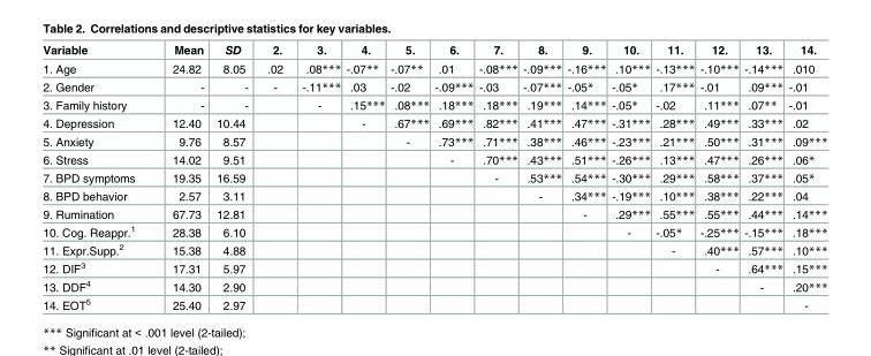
<table><thead><tr><td>Variable</td><td>Mean</td><td>SD</td><td>2.</td><td>3.</td><td>4.</td><td>5.</td><td>6.</td><td>7.</td><td>8.</td><td>9.</td><td>10.</td><td>11.</td><td>12.</td><td>13.</td><td>14.</td></tr></thead><tbody><tr><td>1. Age</td><td>24.82</td><td>8.05</td><td>.02</td><td>.08***</td><td>-.07**</td><td>-.07**</td><td>.01</td><td>-.08***</td><td>-.09***</td><td>-.16***</td><td>.10***</td><td>-.13***</td><td>-.10***</td><td>-.14***</td><td>.010</td></tr><tr><td>2. Gender</td><td>-</td><td>-</td><td>-</td><td>-.11***</td><td>.03</td><td>-.02</td><td>-.09***</td><td>-.03</td><td>-.07***</td><td>-.05*</td><td>-.05*</td><td>.17***</td><td>-.01</td><td>.09***</td><td>-.01</td></tr><tr><td>3. Family history</td><td>-</td><td>-</td><td></td><td>-</td><td>.15***</td><td>.08***</td><td>.18***</td><td>.18***</td><td>.19***</td><td>.14***</td><td>-.05*</td><td>-.02</td><td>.11***</td><td>.07**</td><td>-.01</td></tr><tr><td>4. Depression</td><td>12.40</td><td>10.44</td><td></td><td></td><td>-</td><td>.67***</td><td>.69***</td><td>.82***</td><td>.41***</td><td>.47***</td><td>-.31***</td><td>.28***</td><td>.49***</td><td>.33***</td><td>.02</td></tr><tr><td>5. Anxiety</td><td>9.76</td><td>8.57</td><td></td><td></td><td></td><td>-</td><td>.73***</td><td>.71***</td><td>.38***</td><td>.46***</td><td>-.23***</td><td>.21***</td><td>.50***</td><td>.31***</td><td>.09***</td></tr><tr><td>6. Stress</td><td>14.02</td><td>9.51</td><td></td><td></td><td></td><td></td><td>-</td><td>.70***</td><td>.43***</td><td>.51***</td><td>-.26***</td><td>.13***</td><td>.47***</td><td>.26***</td><td>.06*</td></tr><tr><td>7. BPD symptoms</td><td>19.35</td><td>16.59</td><td></td><td></td><td></td><td></td><td></td><td>-</td><td>.53***</td><td>.54***</td><td>-.30***</td><td>.29***</td><td>.58***</td><td>.37***</td><td>.05*</td></tr><tr><td>8. BPD behavior</td><td>2.57</td><td>3.11</td><td></td><td></td><td></td><td></td><td></td><td></td><td>-</td><td>.34***</td><td>-.19***</td><td>.10***</td><td>.38***</td><td>.22***</td><td>.04</td></tr><tr><td>9. Rumination</td><td>67.73</td><td>12.81</td><td></td><td></td><td></td><td></td><td></td><td></td><td></td><td>-</td><td>.29***</td><td>.55***</td><td>.55***</td><td>.44***</td><td>.14***</td></tr><tr><td>10. Cog. Reappr.<sup>1</sup></td><td>28.38</td><td>6.10</td><td></td><td></td><td></td><td></td><td></td><td></td><td></td><td></td><td>-</td><td>-.05*</td><td>-.25***</td><td>-.15***</td><td>.18***</td></tr><tr><td>11. Expr.Supp.<sup>2</sup></td><td>15.38</td><td>4.88</td><td></td><td></td><td></td><td></td><td></td><td></td><td></td><td></td><td></td><td>-</td><td>.40***</td><td>.57***</td><td>.10***</td></tr><tr><td>12. DIF<sup>3</sup></td><td>17.31</td><td>5.97</td><td></td><td></td><td></td><td></td><td></td><td></td><td></td><td></td><td></td><td></td><td>-</td><td>.64***</td><td>.15***</td></tr><tr><td>13. DDF<sup>4</sup></td><td>14.30</td><td>2.90</td><td></td><td></td><td></td><td></td><td></td><td></td><td></td><td></td><td></td><td></td><td></td><td>-</td><td>.20***</td></tr><tr><td>14. EOT<sup>5</sup></td><td>25.40</td><td>2.97</td><td></td><td></td><td></td><td></td><td></td><td></td><td></td><td></td><td></td><td></td><td></td><td></td><td>-</td></tr></tbody></table>